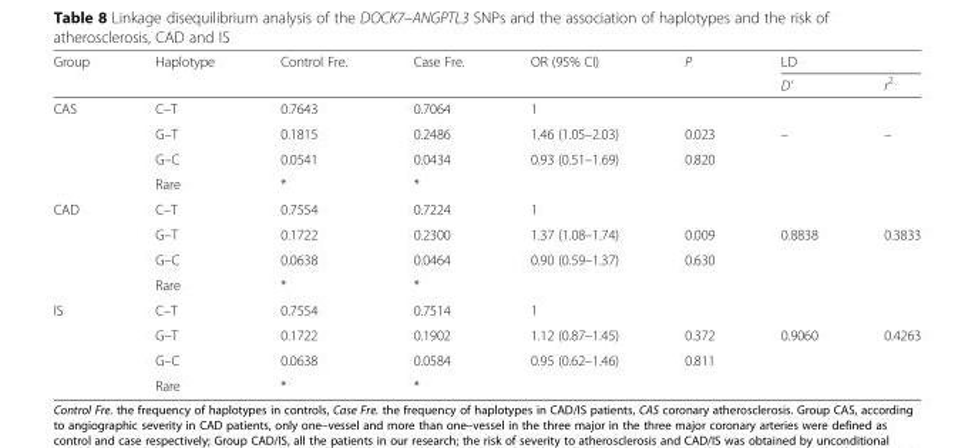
<table><thead><tr><td rowspan="2">Group</td><td rowspan="2">Haplotype</td><td rowspan="2">Control Fre.</td><td rowspan="2">Case Fre.</td><td rowspan="2">OR (95% CI)</td><td rowspan="2">P</td><td colspan="2">LD</td></tr><tr><td>D’</td><td>r<sup>2</sup></td></tr></thead><tbody><tr><td rowspan="4">CAS</td><td>C–T</td><td>0.7643</td><td>0.7064</td><td>1</td><td></td><td></td><td></td></tr><tr><td>G–T</td><td>0.1815</td><td>0.2486</td><td>1.46 (1.05–2.03)</td><td>0.023</td><td rowspan="2">–</td><td rowspan="2">–</td></tr><tr><td>G–C</td><td>0.0541</td><td>0.0434</td><td>0.93 (0.51–1.69)</td><td>0.820</td></tr><tr><td>Rare</td><td>*</td><td>*</td><td></td><td></td><td></td><td></td></tr><tr><td rowspan="4">CAD</td><td>C–T</td><td>0.7554</td><td>0.7224</td><td>1</td><td></td><td></td><td></td></tr><tr><td>G–T</td><td>0.1722</td><td>0.2300</td><td>1.37 (1.08–1.74)</td><td>0.009</td><td rowspan="2">0.8838</td><td rowspan="2">0.3833</td></tr><tr><td>G–C</td><td>0.0638</td><td>0.0464</td><td>0.90 (0.59–1.37)</td><td>0.630</td></tr><tr><td>Rare</td><td>*</td><td>*</td><td></td><td></td><td></td><td></td></tr><tr><td rowspan="4">IS</td><td>C–T</td><td>0.7554</td><td>0.7514</td><td>1</td><td></td><td></td><td></td></tr><tr><td>G–T</td><td>0.1722</td><td>0.1902</td><td>1.12 (0.87–1.45)</td><td>0.372</td><td rowspan="2">0.9060</td><td rowspan="2">0.4263</td></tr><tr><td>G–C</td><td>0.0638</td><td>0.0584</td><td>0.95 (0.62–1.46)</td><td>0.811</td></tr><tr><td>Rare</td><td>*</td><td>*</td><td></td><td></td><td></td><td></td></tr></tbody></table>